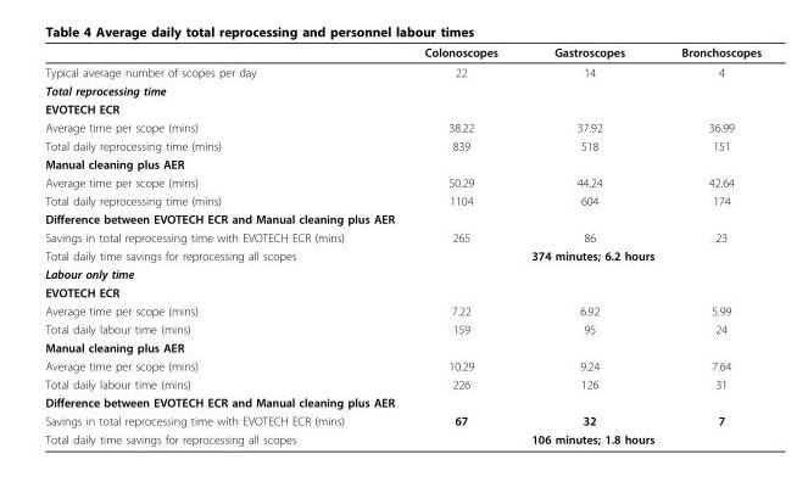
<table><thead><tr><td></td><td>Colonoscopes</td><td>Gastroscopes</td><td>Bronchoscopes</td></tr></thead><tbody><tr><td>Typical average number of scopes per day</td><td>22</td><td>14</td><td>4</td></tr><tr><td colspan="4">Total reprocessing time</td></tr><tr><td colspan="4">EVOTECH ECR</td></tr><tr><td>Average time per scope (mins)</td><td>38.22</td><td>37.92</td><td>36.99</td></tr><tr><td>Total daily reprocessing time (mins)</td><td>839</td><td>518</td><td>151</td></tr><tr><td colspan="4">Manual cleaning plus AER</td></tr><tr><td>Average time per scope (mins)</td><td>50.29</td><td>44.24</td><td>42.64</td></tr><tr><td>Total daily reprocessing time (mins)</td><td>1104</td><td>604</td><td>174</td></tr><tr><td colspan="4">Difference between EVOTECH ECR and Manual cleaning plus AER</td></tr><tr><td>Savings in total reprocessing time with EVOTECH ECR (mins)</td><td>265</td><td>86</td><td>23</td></tr><tr><td>Total daily time savings for reprocessing all scopes</td><td colspan="3">374 minutes; 6.2 hours</td></tr><tr><td colspan="4">Labour only time</td></tr><tr><td colspan="4">EVOTECH ECR</td></tr><tr><td>Average time per scope (mins)</td><td>7.22</td><td>6.92</td><td>5.99</td></tr><tr><td>Total daily labour time (mins)</td><td>159</td><td>95</td><td>24</td></tr><tr><td colspan="4">Manual cleaning plus AER</td></tr><tr><td>Average time per scope (mins)</td><td>10.29</td><td>9.24</td><td>7.64</td></tr><tr><td>Total daily labour time (mins)</td><td>226</td><td>126</td><td>31</td></tr><tr><td colspan="4">Difference between EVOTECH ECR and Manual cleaning plus AER</td></tr><tr><td>Savings in total reprocessing time with EVOTECH ECR (mins)</td><td>67</td><td>32</td><td>7</td></tr><tr><td>Total daily time savings for reprocessing all scopes</td><td colspan="3">106 minutes; 1.8 hours</td></tr></tbody></table>